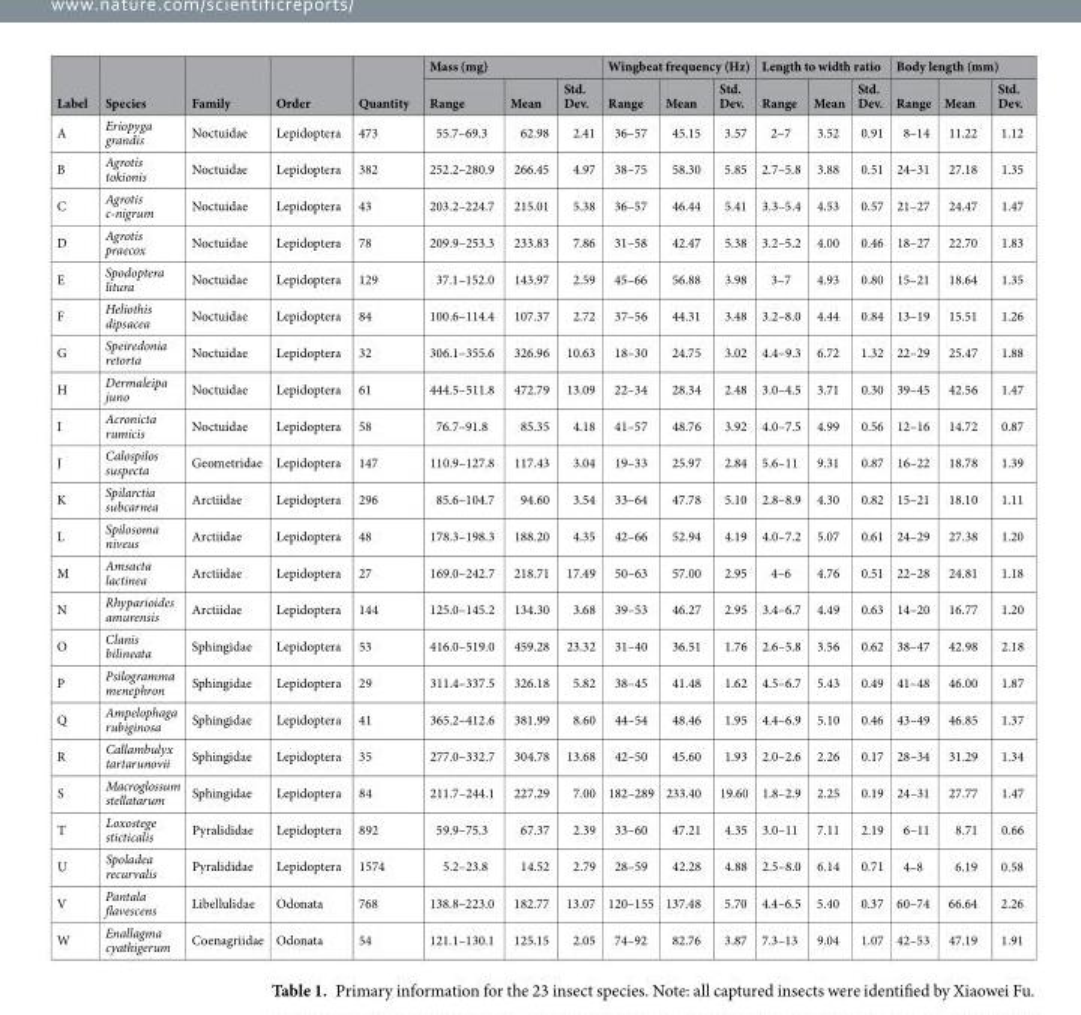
<table><thead><tr><td rowspan="2">Label</td><td rowspan="2">Species</td><td rowspan="2">Family</td><td rowspan="2">Order</td><td rowspan="2">Quantity</td><td colspan="3">Mass (mg)</td><td colspan="3">Wingbeat frequency (Hz)</td><td colspan="3">Length to width ratio</td><td colspan="3">Body length (mm)</td></tr><tr><td>Range</td><td>Mean</td><td>Std. Dev.</td><td>Range</td><td>Mean</td><td>Std. Dev.</td><td>Range</td><td>Mean</td><td>Std. Dev.</td><td>Range</td><td>Mean</td><td>Std. Dev.</td></tr></thead><tbody><tr><td>A</td><td>Eriopyga grandis</td><td>Noctuidae</td><td>Lepidoptera</td><td>473</td><td>55.7–69.3</td><td>62.98</td><td>2.41</td><td>36–57</td><td>45.15</td><td>3.57</td><td>2–7</td><td>3.52</td><td>0.91</td><td>8–14</td><td>11.22</td><td>1.12</td></tr><tr><td>B</td><td>Agrotis tokionis</td><td>Noctuidae</td><td>Lepidoptera</td><td>382</td><td>252.2–280.9</td><td>266.45</td><td>4.97</td><td>38–75</td><td>58.30</td><td>5.85</td><td>2.7–5.8</td><td>3.88</td><td>0.51</td><td>24–31</td><td>27.18</td><td>1.35</td></tr><tr><td>C</td><td>Agrotis c-nigrum</td><td>Noctuidae</td><td>Lepidoptera</td><td>43</td><td>203.2–224.7</td><td>215.01</td><td>5.38</td><td>36–57</td><td>46.44</td><td>5.41</td><td>3.3–5.4</td><td>4.53</td><td>0.57</td><td>21–27</td><td>24.47</td><td>1.47</td></tr><tr><td>D</td><td>Agrotis praecox</td><td>Noctuidae</td><td>Lepidoptera</td><td>78</td><td>209.9–253.3</td><td>233.83</td><td>7.86</td><td>31–58</td><td>42.47</td><td>5.38</td><td>3.2–5.2</td><td>4.00</td><td>0.46</td><td>18–27</td><td>22.70</td><td>1.83</td></tr><tr><td>E</td><td>Spodoptera litura</td><td>Noctuidae</td><td>Lepidoptera</td><td>129</td><td>37.1–152.0</td><td>143.97</td><td>2.59</td><td>45–66</td><td>56.88</td><td>3.98</td><td>3–7</td><td>4.93</td><td>0.80</td><td>15–21</td><td>18.64</td><td>1.35</td></tr><tr><td>F</td><td>Heliothis dipsacea</td><td>Noctuidae</td><td>Lepidoptera</td><td>84</td><td>100.6–114.4</td><td>107.37</td><td>2.72</td><td>37–56</td><td>44.31</td><td>3.48</td><td>3.2–8.0</td><td>4.44</td><td>0.84</td><td>13–19</td><td>15.51</td><td>1.26</td></tr><tr><td>G</td><td>Speiredonia retorta</td><td>Noctuidae</td><td>Lepidoptera</td><td>32</td><td>306.1–355.6</td><td>326.96</td><td>10.63</td><td>18–30</td><td>24.75</td><td>3.02</td><td>4.4–9.3</td><td>6.72</td><td>1.32</td><td>22–29</td><td>25.47</td><td>1.88</td></tr><tr><td>H</td><td>Dermaleipa juno</td><td>Noctuidae</td><td>Lepidoptera</td><td>61</td><td>444.5–511.8</td><td>472.79</td><td>13.09</td><td>22–34</td><td>28.34</td><td>2.48</td><td>3.0–4.5</td><td>3.71</td><td>0.30</td><td>39–45</td><td>42.56</td><td>1.47</td></tr><tr><td>I</td><td>Acronicta rumicis</td><td>Noctuidae</td><td>Lepidoptera</td><td>58</td><td>76.7–91.8</td><td>85.35</td><td>4.18</td><td>41–57</td><td>48.76</td><td>3.92</td><td>4.0–7.5</td><td>4.99</td><td>0.56</td><td>12–16</td><td>14.72</td><td>0.87</td></tr><tr><td>J</td><td>Calospilos suspecta</td><td>Geometridae</td><td>Lepidoptera</td><td>147</td><td>110.9–127.8</td><td>117.43</td><td>3.04</td><td>19–33</td><td>25.97</td><td>2.84</td><td>5.6–11</td><td>9.31</td><td>0.87</td><td>16–22</td><td>18.78</td><td>1.39</td></tr><tr><td>K</td><td>Spilarctia subcarnea</td><td>Arctiidae</td><td>Lepidoptera</td><td>296</td><td>85.6–104.7</td><td>94.60</td><td>3.54</td><td>33–64</td><td>47.78</td><td>5.10</td><td>2.8–8.9</td><td>4.30</td><td>0.82</td><td>15–21</td><td>18.10</td><td>1.11</td></tr><tr><td>L</td><td>Spilosoma niveus</td><td>Arctiidae</td><td>Lepidoptera</td><td>48</td><td>178.3–198.3</td><td>188.20</td><td>4.35</td><td>42–66</td><td>52.94</td><td>4.19</td><td>4.0–7.2</td><td>5.07</td><td>0.61</td><td>24–29</td><td>27.38</td><td>1.20</td></tr><tr><td>M</td><td>Amsacta lactinea</td><td>Arctiidae</td><td>Lepidoptera</td><td>27</td><td>169.0–242.7</td><td>218.71</td><td>17.49</td><td>50–63</td><td>57.00</td><td>2.95</td><td>4–6</td><td>4.76</td><td>0.51</td><td>22–28</td><td>24.81</td><td>1.18</td></tr><tr><td>N</td><td>Rhyparioides amurensis</td><td>Arctiidae</td><td>Lepidoptera</td><td>144</td><td>125.0–145.2</td><td>134.30</td><td>3.68</td><td>39–53</td><td>46.27</td><td>2.95</td><td>3.4–6.7</td><td>4.49</td><td>0.63</td><td>14–20</td><td>16.77</td><td>1.20</td></tr><tr><td>O</td><td>Clanis bilineata</td><td>Sphingidae</td><td>Lepidoptera</td><td>53</td><td>416.0–519.0</td><td>459.28</td><td>23.32</td><td>31–40</td><td>36.51</td><td>1.76</td><td>2.6–5.8</td><td>3.56</td><td>0.62</td><td>38–47</td><td>42.98</td><td>2.18</td></tr><tr><td>P</td><td>Psilogramma menephron</td><td>Sphingidae</td><td>Lepidoptera</td><td>29</td><td>311.4–337.5</td><td>326.18</td><td>5.82</td><td>38–45</td><td>41.48</td><td>1.62</td><td>4.5–6.7</td><td>5.43</td><td>0.49</td><td>41–48</td><td>46.00</td><td>1.87</td></tr><tr><td>Q</td><td>Ampelophaga rubiginosa</td><td>Sphingidae</td><td>Lepidoptera</td><td>41</td><td>365.2–412.6</td><td>381.99</td><td>8.60</td><td>44–54</td><td>48.46</td><td>1.95</td><td>4.4–6.9</td><td>5.10</td><td>0.46</td><td>43–49</td><td>46.85</td><td>1.37</td></tr><tr><td>R</td><td>Callambulyx tartarunovii</td><td>Sphingidae</td><td>Lepidoptera</td><td>35</td><td>277.0–332.7</td><td>304.78</td><td>13.68</td><td>42–50</td><td>45.60</td><td>1.93</td><td>2.0–2.6</td><td>2.26</td><td>0.17</td><td>28–34</td><td>31.29</td><td>1.34</td></tr><tr><td>S</td><td>Macroglossum stellatarum</td><td>Sphingidae</td><td>Lepidoptera</td><td>84</td><td>211.7–244.1</td><td>227.29</td><td>7.00</td><td>182–289</td><td>233.40</td><td>19.60</td><td>1.8–2.9</td><td>2.25</td><td>0.19</td><td>24–31</td><td>27.77</td><td>1.47</td></tr><tr><td>T</td><td>Loxostege sticticalis</td><td>Pyralididae</td><td>Lepidoptera</td><td>892</td><td>59.9–75.3</td><td>67.37</td><td>2.39</td><td>33–60</td><td>47.21</td><td>4.35</td><td>3.0–11</td><td>7.11</td><td>2.19</td><td>6–11</td><td>8.71</td><td>0.66</td></tr><tr><td>U</td><td>Spoladea recurvalis</td><td>Pyralididae</td><td>Lepidoptera</td><td>1574</td><td>5.2–23.8</td><td>14.52</td><td>2.79</td><td>28–59</td><td>42.28</td><td>4.88</td><td>2.5–8.0</td><td>6.14</td><td>0.71</td><td>4–8</td><td>6.19</td><td>0.58</td></tr><tr><td>V</td><td>Pantala flavescens</td><td>Libellulidae</td><td>Odonata</td><td>768</td><td>138.8–223.0</td><td>182.77</td><td>13.07</td><td>120–155</td><td>137.48</td><td>5.70</td><td>4.4–6.5</td><td>5.40</td><td>0.37</td><td>60–74</td><td>66.64</td><td>2.26</td></tr><tr><td>W</td><td>Enallagma cyathigerum</td><td>Coenagriidae</td><td>Odonata</td><td>54</td><td>121.1–130.1</td><td>125.15</td><td>2.05</td><td>74–92</td><td>82.76</td><td>3.87</td><td>7.3–13</td><td>9.04</td><td>1.07</td><td>42–53</td><td>47.19</td><td>1.91</td></tr></tbody></table>